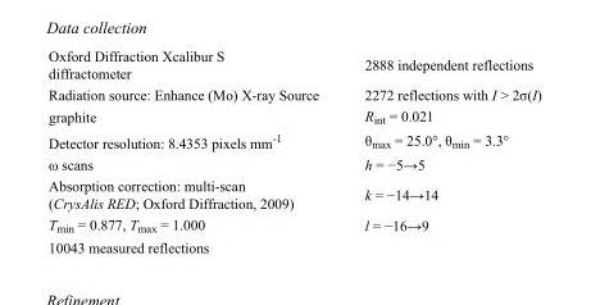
<table><tbody><tr><td>Oxford Diffraction Xcalibur S diffractometer</td><td>2888 independent reflections</td></tr><tr><td>Radiation source: Enhance (Mo) X-ray Source</td><td>2272 reflections with I &gt; 2σ(I)</td></tr><tr><td>graphite</td><td>R<sub>int</sub> = 0.021</td></tr><tr><td>Detector resolution: 8.4353 pixels mm<sup>-1</sup></td><td>θ<sub>max</sub> = 25.0°, θ<sub>min</sub> = 3.3°</td></tr><tr><td>ω scans</td><td>h = −5→5</td></tr><tr><td>Absorption correction: multi-scan (CrysAlis RED; Oxford Diffraction, 2009)</td><td>k = −14→14</td></tr><tr><td>T<sub>min</sub> = 0.877, T<sub>max</sub> = 1.000</td><td>l = −16→9</td></tr><tr><td>10043 measured reflections</td><td></td></tr></tbody></table>